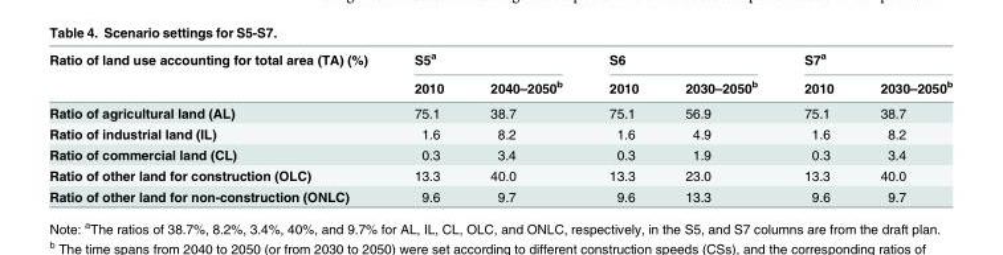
<table><thead><tr><td rowspan="2">Ratio of land use accounting for total area (TA) (%)</td><td colspan="2">S5<sup>a</sup></td><td colspan="2">S6</td><td colspan="2">S7<sup>a</sup></td></tr><tr><td>2010</td><td>2040–2050<sup>b</sup></td><td>2010</td><td>2030–2050<sup>b</sup></td><td>2010</td><td>2030–2050<sup>b</sup></td></tr></thead><tbody><tr><td>Ratio of agricultural land (AL)</td><td>75.1</td><td>38.7</td><td>75.1</td><td>56.9</td><td>75.1</td><td>38.7</td></tr><tr><td>Ratio of industrial land (IL)</td><td>1.6</td><td>8.2</td><td>1.6</td><td>4.9</td><td>1.6</td><td>8.2</td></tr><tr><td>Ratio of commercial land (CL)</td><td>0.3</td><td>3.4</td><td>0.3</td><td>1.9</td><td>0.3</td><td>3.4</td></tr><tr><td>Ratio of other land for construction (OLC)</td><td>13.3</td><td>40.0</td><td>13.3</td><td>23.0</td><td>13.3</td><td>40.0</td></tr><tr><td>Ratio of other land for non-construction (ONLC)</td><td>9.6</td><td>9.7</td><td>9.6</td><td>13.3</td><td>9.6</td><td>9.7</td></tr></tbody></table>